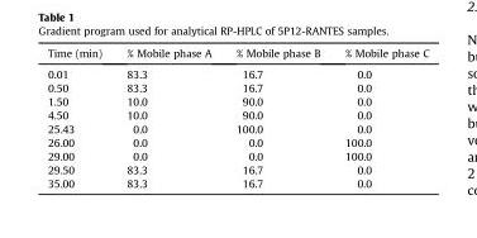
<table><thead><tr><td>Time (min)</td><td>% Mobile phase A</td><td>% Mobile phase B</td><td>% Mobile phase C</td></tr></thead><tbody><tr><td>0.01</td><td>83.3</td><td>16.7</td><td>0.0</td></tr><tr><td>0.50</td><td>83.3</td><td>16.7</td><td>0.0</td></tr><tr><td>1.50</td><td>10.0</td><td>90.0</td><td>0.0</td></tr><tr><td>4.50</td><td>10.0</td><td>90.0</td><td>0.0</td></tr><tr><td>25.43</td><td>0.0</td><td>100.0</td><td>0.0</td></tr><tr><td>26.00</td><td>0.0</td><td>0.0</td><td>100.0</td></tr><tr><td>29.00</td><td>0.0</td><td>0.0</td><td>100.0</td></tr><tr><td>29.50</td><td>83.3</td><td>16.7</td><td>0.0</td></tr><tr><td>35.00</td><td>83.3</td><td>16.7</td><td>0.0</td></tr></tbody></table>